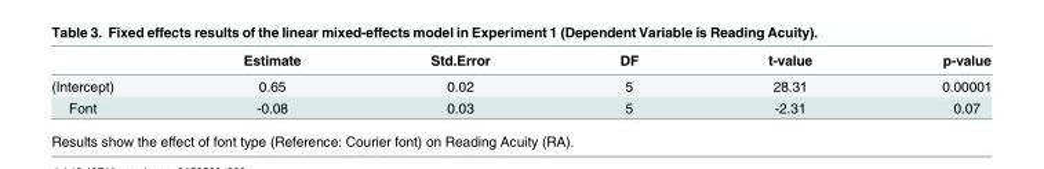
<table><thead><tr><td></td><td>Estimate</td><td>Std.Error</td><td>DF</td><td>t-value</td><td>p-value</td></tr></thead><tbody><tr><td>(Intercept)</td><td>0.65</td><td>0.02</td><td>5</td><td>28.31</td><td>0.00001</td></tr><tr><td>Font</td><td>-0.08</td><td>0.03</td><td>5</td><td>-2.31</td><td>0.07</td></tr></tbody></table>